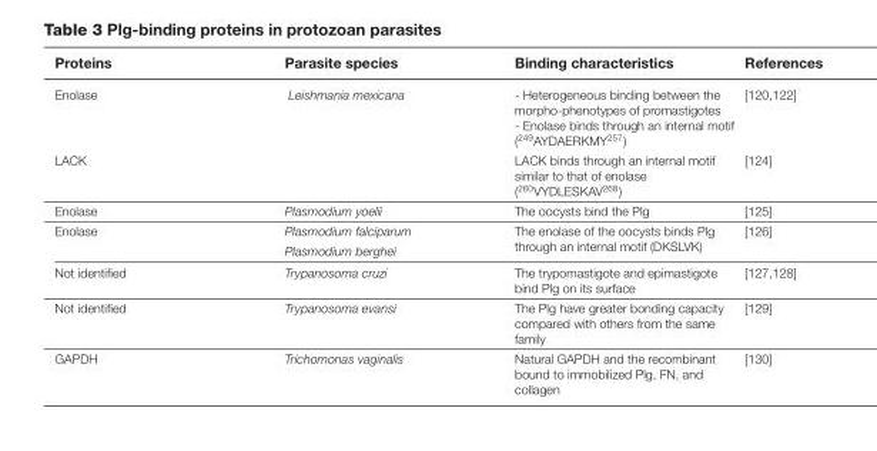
<table><thead><tr><td>Proteins</td><td>Parasite species</td><td>Binding characteristics</td><td>References</td></tr></thead><tbody><tr><td>Enolase</td><td rowspan="2">Leishmania mexicana</td><td>- Heterogeneous binding between the morpho-phenotypes of promastigotes - Enolase binds through an internal motif (<sup>249</sup>AYDAERKMY<sup>257</sup>)</td><td>[120,122]</td></tr><tr><td>LACK</td><td>LACK binds through an internal motif similar to that of enolase (<sup>260</sup>VYDLESKAV<sup>268</sup>)</td><td>[124]</td></tr><tr><td>Enolase</td><td>Plasmodium yoelii</td><td>The oocysts bind the Plg</td><td>[125]</td></tr><tr><td rowspan="2">Enolase</td><td>Plasmodium falciparum</td><td rowspan="2">The enolase of the oocysts binds Plg through an internal motif (DKSLVK)</td><td rowspan="2">[126]</td></tr><tr><td>Plasmodium berghei</td></tr><tr><td>Not identified</td><td>Trypanosoma cruzi</td><td>The trypomastigote and epimastigote bind Plg on its surface</td><td>[127,128]</td></tr><tr><td>Not identified</td><td>Trypanosoma evansi</td><td>The Plg have greater bonding capacity compared with others from the same family</td><td>[129]</td></tr><tr><td>GAPDH</td><td>Trichomonas vaginalis</td><td>Natural GAPDH and the recombinant bound to immobilized Plg, FN, and collagen</td><td>[130]</td></tr></tbody></table>